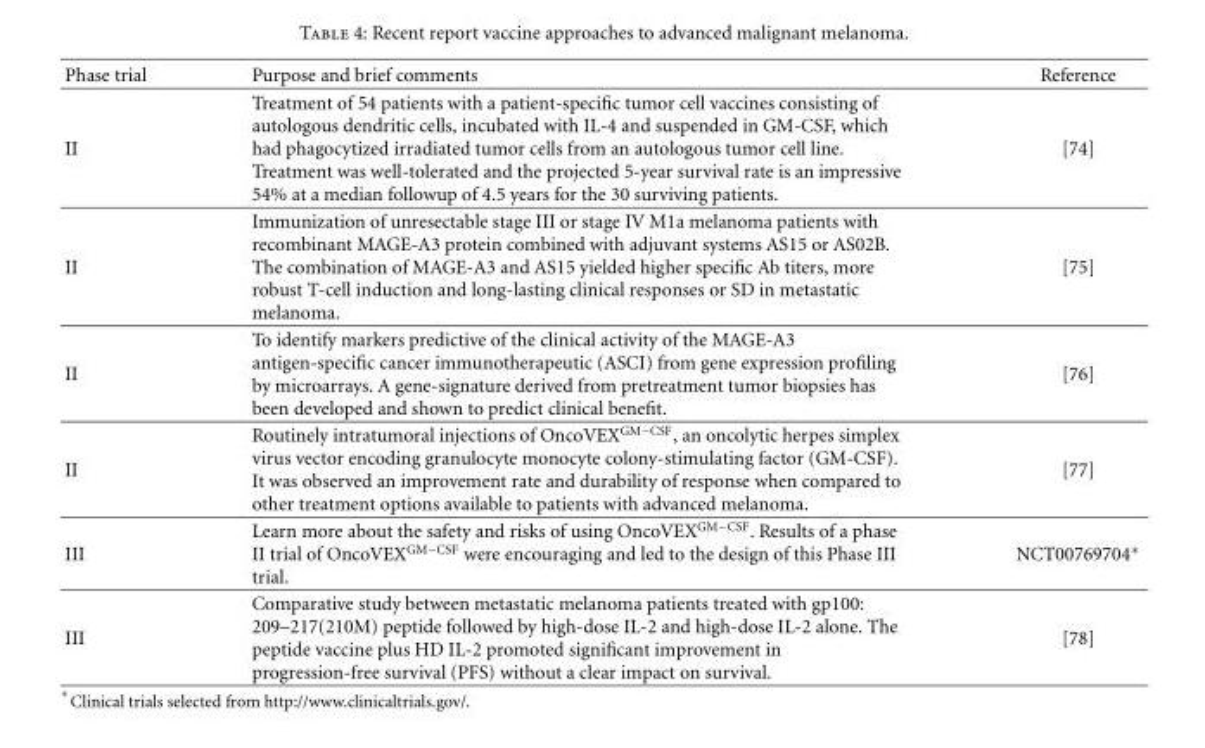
<table><thead><tr><td>Phase trial</td><td>Purpose and brief comments</td><td>Reference</td></tr></thead><tbody><tr><td>II</td><td>Treatment of 54 patients with a patient-specific tumor cell vaccines consisting of autologous dendritic cells, incubated with IL-4 and suspended in GM-CSF, which had phagocytized irradiated tumor cells from an autologous tumor cell line. Treatment was well-tolerated and the projected 5-year survival rate is an impressive 54% at a median followup of 4.5 years for the 30 surviving patients.</td><td>[74]</td></tr><tr><td>II</td><td>Immunization of unresectable stage III or stage IV M1a melanoma patients with recombinant MAGE-A3 protein combined with adjuvant systems AS15 or AS02B. The combination of MAGE-A3 and AS15 yielded higher specific Ab titers, more robust T-cell induction and long-lasting clinical responses or SD in metastatic melanoma.</td><td>[75]</td></tr><tr><td>II</td><td>To identify markers predictive of the clinical activity of the MAGE-A3 antigen-specific cancer immunotherapeutic (ASCI) from gene expression profiling by microarrays. A gene-signature derived from pretreatment tumor biopsies has been developed and shown to predict clinical benefit.</td><td>[76]</td></tr><tr><td>II</td><td>Routinely intratumoral injections of OncoVEX<sup>GM−CSF</sup>, an oncolytic herpes simplex virus vector encoding granulocyte monocyte colony-stimulating factor (GM-CSF). It was observed an improvement rate and durability of response when compared to other treatment options available to patients with advanced melanoma.</td><td>[77]</td></tr><tr><td>III</td><td>Learn more about the safety and risks of using OncoVEXGM−CSF. Results of a phase II trial of OncoVEXGM−CSF were encouraging and led to the design of this Phase III trial.</td><td>NCT00769704∗</td></tr><tr><td>III</td><td>Comparative study between metastatic melanoma patients treated with gp100: 209–217(210M) peptide followed by high-dose IL-2 and high-dose IL-2 alone. The peptide vaccine plus HD IL-2 promoted significant improvement in progression-free survival (PFS) without a clear impact on survival.</td><td>[78]</td></tr></tbody></table>